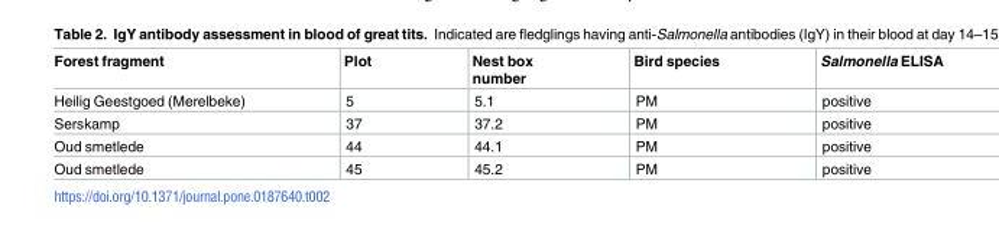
<table><thead><tr><td>Forest fragment</td><td>Plot</td><td>Nest box number</td><td>Bird species</td><td>Salmonella ELISA</td></tr></thead><tbody><tr><td>Heilig Geestgoed (Merelbeke)</td><td>5</td><td>5.1</td><td>PM</td><td>positive</td></tr><tr><td>Serskamp</td><td>37</td><td>37.2</td><td>PM</td><td>positive</td></tr><tr><td>Oud smetlede</td><td>44</td><td>44.1</td><td>PM</td><td>positive</td></tr><tr><td>Oud smetlede</td><td>45</td><td>45.2</td><td>PM</td><td>positive</td></tr></tbody></table>